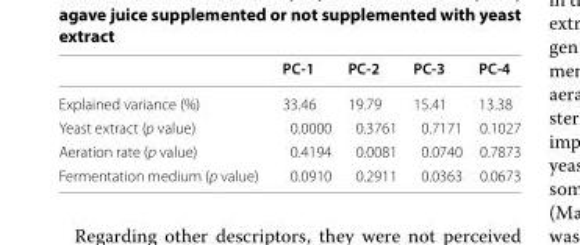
<table><thead><tr><td></td><td>PC-1</td><td>PC-2</td><td>PC-3</td><td>PC-4</td></tr></thead><tbody><tr><td>Explained variance (%)</td><td>33.46</td><td>19.79</td><td>15.41</td><td>13.38</td></tr><tr><td>Yeast extract (p value)</td><td>0.0000</td><td>0.3761</td><td>0.7171</td><td>0.1027</td></tr><tr><td>Aeration rate (p value)</td><td>0.4194</td><td>0.0081</td><td>0.0740</td><td>0.7873</td></tr><tr><td>Fermentation medium (p value)</td><td>0.0910</td><td>0.2911</td><td>0.0363</td><td>0.0673</td></tr></tbody></table>